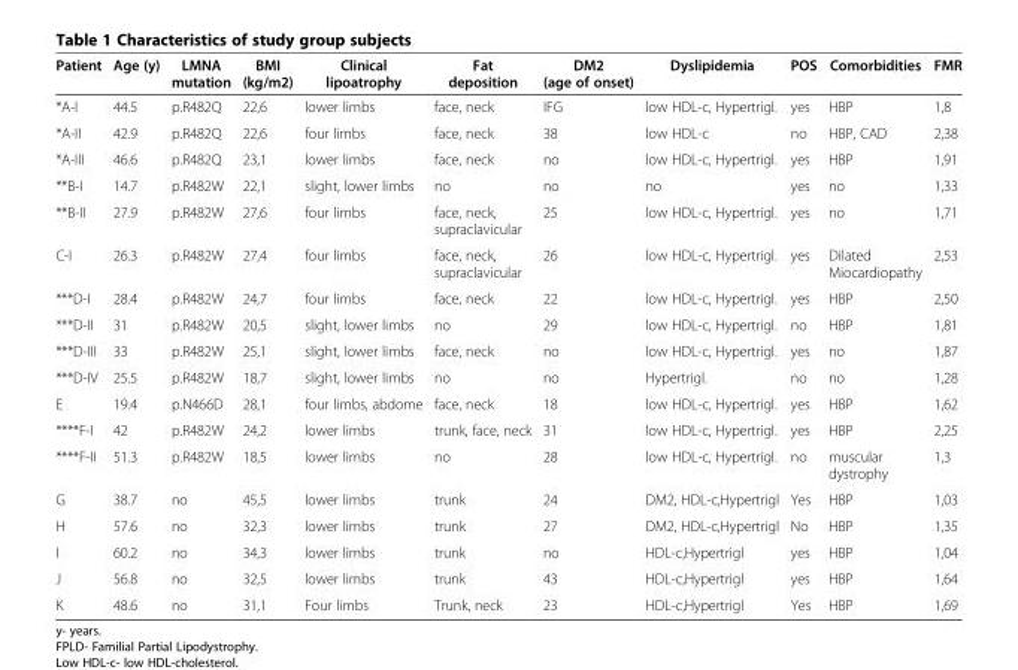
<table><thead><tr><td>Patient</td><td>Age (y)</td><td>LMNA mutation</td><td>BMI (kg/m2)</td><td>Clinical lipoatrophy</td><td>Fat deposition</td><td>DM2 (age of onset)</td><td>Dyslipidemia</td><td>POS</td><td>Comorbidities</td><td>FMR</td></tr></thead><tbody><tr><td>*A-I</td><td>44.5</td><td>p.R482Q</td><td>22,6</td><td>lower limbs</td><td>face, neck</td><td>IFG</td><td>low HDL-c, Hypertrigl.</td><td>yes</td><td>HBP</td><td>1,8</td></tr><tr><td>*A-II</td><td>42.9</td><td>p.R482Q</td><td>22,6</td><td>four limbs</td><td>face, neck</td><td>38</td><td>low HDL-c</td><td>no</td><td>HBP, CAD</td><td>2,38</td></tr><tr><td>*A-III</td><td>46.6</td><td>p.R482Q</td><td>23,1</td><td>lower limbs</td><td>face, neck</td><td>no</td><td>low HDL-c, Hypertrigl.</td><td>yes</td><td>HBP</td><td>1,91</td></tr><tr><td>**B-I</td><td>14.7</td><td>p.R482W</td><td>22,1</td><td>slight, lower limbs</td><td>no</td><td>no</td><td>no</td><td>yes</td><td>no</td><td>1,33</td></tr><tr><td>**B-II</td><td>27.9</td><td>p.R482W</td><td>27,6</td><td>four limbs</td><td>face, neck, supraclavicular</td><td>25</td><td>low HDL-c, Hypertrigl.</td><td>yes</td><td>no</td><td>1,71</td></tr><tr><td>C-I</td><td>26.3</td><td>p.R482W</td><td>27,4</td><td>four limbs</td><td>face, neck, supraclavicular</td><td>26</td><td>low HDL-c, Hypertrigl.</td><td>yes</td><td>Dilated Miocardiopathy</td><td>2,53</td></tr><tr><td>***D-I</td><td>28.4</td><td>p.R482W</td><td>24,7</td><td>four limbs</td><td>face, neck</td><td>22</td><td>low HDL-c, Hypertrigl.</td><td>yes</td><td>HBP</td><td>2,50</td></tr><tr><td>***D-II</td><td>31</td><td>p.R482W</td><td>20,5</td><td>slight, lower limbs</td><td>no</td><td>29</td><td>low HDL-c, Hypertrigl.</td><td>no</td><td>HBP</td><td>1,81</td></tr><tr><td>***D-III</td><td>33</td><td>p.R482W</td><td>25,1</td><td>slight, lower limbs</td><td>face, neck</td><td>no</td><td>low HDL-c, Hypertrigl.</td><td>yes</td><td>no</td><td>1,87</td></tr><tr><td>***D-IV</td><td>25.5</td><td>p.R482W</td><td>18,7</td><td>slight, lower limbs</td><td>no</td><td>no</td><td>Hypertrigl.</td><td>no</td><td>no</td><td>1,28</td></tr><tr><td>E</td><td>19.4</td><td>p.N466D</td><td>28,1</td><td>four limbs, abdome</td><td>face, neck</td><td>18</td><td>low HDL-c, Hypertrigl.</td><td>yes</td><td>HBP</td><td>1,62</td></tr><tr><td>****F-I</td><td>42</td><td>p.R482W</td><td>24,2</td><td>lower limbs</td><td>trunk, face, neck</td><td>31</td><td>low HDL-c, Hypertrigl.</td><td>yes</td><td>HBP</td><td>2,25</td></tr><tr><td>****F-II</td><td>51.3</td><td>p.R482W</td><td>18,5</td><td>lower limbs</td><td>no</td><td>28</td><td>low HDL-c, Hypertrigl.</td><td>no</td><td>muscular dystrophy</td><td>1,3</td></tr><tr><td>G</td><td>38.7</td><td>no</td><td>45,5</td><td>lower limbs</td><td>trunk</td><td>24</td><td>DM2, HDL-c,Hypertrigl</td><td>Yes</td><td>HBP</td><td>1,03</td></tr><tr><td>H</td><td>57.6</td><td>no</td><td>32,3</td><td>lower limbs</td><td>trunk</td><td>27</td><td>DM2, HDL-c,Hypertrigl</td><td>No</td><td>HBP</td><td>1,35</td></tr><tr><td>I</td><td>60.2</td><td>no</td><td>34,3</td><td>lower limbs</td><td>trunk</td><td>no</td><td>HDL-c,Hypertrigl</td><td>yes</td><td>HBP</td><td>1,04</td></tr><tr><td>J</td><td>56.8</td><td>no</td><td>32,5</td><td>lower limbs</td><td>trunk</td><td>43</td><td>HDL-c,Hypertrigl</td><td>yes</td><td>HBP</td><td>1,64</td></tr><tr><td>K</td><td>48.6</td><td>no</td><td>31,1</td><td>Four limbs</td><td>Trunk, neck</td><td>23</td><td>HDL-c,Hypertrigl</td><td>Yes</td><td>HBP</td><td>1,69</td></tr></tbody></table>